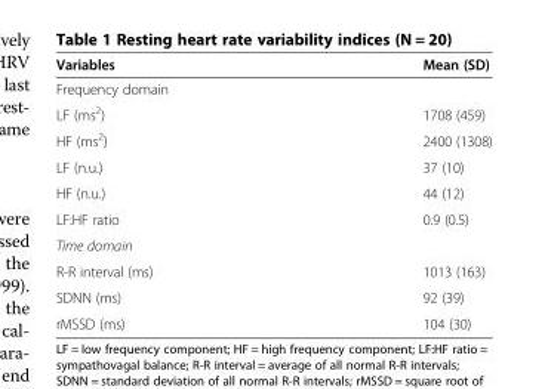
<table><thead><tr><td>Variables</td><td>Mean (SD)</td></tr></thead><tbody><tr><td colspan="2">Frequency domain</td></tr><tr><td>LF (ms<sup>2</sup>)</td><td>1708 (459)</td></tr><tr><td>HF (ms<sup>2</sup>)</td><td>2400 (1308)</td></tr><tr><td>LF (n.u.)</td><td>37 (10)</td></tr><tr><td>HF (n.u.)</td><td>44 (12)</td></tr><tr><td>LF:HF ratio</td><td>0.9 (0.5)</td></tr><tr><td colspan="2">Time domain</td></tr><tr><td>R-R interval (ms)</td><td>1013 (163)</td></tr><tr><td>SDNN (ms)</td><td>92 (39)</td></tr><tr><td>rMSSD (ms)</td><td>104 (30)</td></tr></tbody></table>